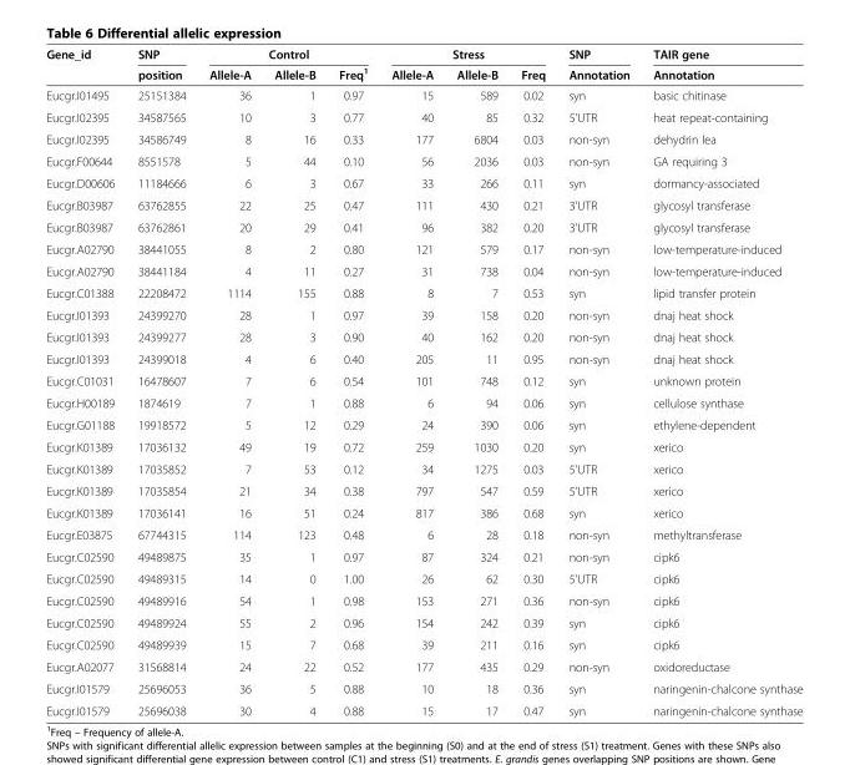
<table><thead><tr><td rowspan="2">Gene_id</td><td rowspan="2">SNP position</td><td colspan="3">Control</td><td colspan="3">Stress</td><td rowspan="2">SNP Annotation</td><td rowspan="2">TAIR gene Annotation</td></tr><tr><td>Allele-A</td><td>Allele-B</td><td>Freq<sup>1</sup></td><td>Allele-A</td><td>Allele-B</td><td>Freq</td></tr></thead><tbody><tr><td>Eucgr.I01495</td><td>25151384</td><td>36</td><td>1</td><td>0.97</td><td>15</td><td>589</td><td>0.02</td><td>syn</td><td>basic chitinase</td></tr><tr><td>Eucgr.I02395</td><td>34587565</td><td>10</td><td>3</td><td>0.77</td><td>40</td><td>85</td><td>0.32</td><td>5&#x27;UTR</td><td>heat repeat-containing</td></tr><tr><td>Eucgr.I02395</td><td>34586749</td><td>8</td><td>16</td><td>0.33</td><td>177</td><td>6804</td><td>0.03</td><td>non-syn</td><td>dehydrin lea</td></tr><tr><td>Eucgr.F00644</td><td>8551578</td><td>5</td><td>44</td><td>0.10</td><td>56</td><td>2036</td><td>0.03</td><td>non-syn</td><td>GA requiring 3</td></tr><tr><td>Eucgr.D00606</td><td>11184666</td><td>6</td><td>3</td><td>0.67</td><td>33</td><td>266</td><td>0.11</td><td>syn</td><td>dormancy-associated</td></tr><tr><td>Eucgr.B03987</td><td>63762855</td><td>22</td><td>25</td><td>0.47</td><td>111</td><td>430</td><td>0.21</td><td>3&#x27;UTR</td><td>glycosyl transferase</td></tr><tr><td>Eucgr.B03987</td><td>63762861</td><td>20</td><td>29</td><td>0.41</td><td>96</td><td>382</td><td>0.20</td><td>3&#x27;UTR</td><td>glycosyl transferase</td></tr><tr><td>Eucgr.A02790</td><td>38441055</td><td>8</td><td>2</td><td>0.80</td><td>121</td><td>579</td><td>0.17</td><td>non-syn</td><td>low-temperature-induced</td></tr><tr><td>Eucgr.A02790</td><td>38441184</td><td>4</td><td>11</td><td>0.27</td><td>31</td><td>738</td><td>0.04</td><td>non-syn</td><td>low-temperature-induced</td></tr><tr><td>Eucgr.C01388</td><td>22208472</td><td>1114</td><td>155</td><td>0.88</td><td>8</td><td>7</td><td>0.53</td><td>syn</td><td>lipid transfer protein</td></tr><tr><td>Eucgr.I01393</td><td>24399270</td><td>28</td><td>1</td><td>0.97</td><td>39</td><td>158</td><td>0.20</td><td>non-syn</td><td>dnaj heat shock</td></tr><tr><td>Eucgr.I01393</td><td>24399277</td><td>28</td><td>3</td><td>0.90</td><td>40</td><td>162</td><td>0.20</td><td>non-syn</td><td>dnaj heat shock</td></tr><tr><td>Eucgr.I01393</td><td>24399018</td><td>4</td><td>6</td><td>0.40</td><td>205</td><td>11</td><td>0.95</td><td>non-syn</td><td>dnaj heat shock</td></tr><tr><td>Eucgr.C01031</td><td>16478607</td><td>7</td><td>6</td><td>0.54</td><td>101</td><td>748</td><td>0.12</td><td>syn</td><td>unknown protein</td></tr><tr><td>Eucgr.H00189</td><td>1874619</td><td>7</td><td>1</td><td>0.88</td><td>6</td><td>94</td><td>0.06</td><td>syn</td><td>cellulose synthase</td></tr><tr><td>Eucgr.G01188</td><td>19918572</td><td>5</td><td>12</td><td>0.29</td><td>24</td><td>390</td><td>0.06</td><td>syn</td><td>ethylene-dependent</td></tr><tr><td>Eucgr.K01389</td><td>17036132</td><td>49</td><td>19</td><td>0.72</td><td>259</td><td>1030</td><td>0.20</td><td>syn</td><td>xerico</td></tr><tr><td>Eucgr.K01389</td><td>17035852</td><td>7</td><td>53</td><td>0.12</td><td>34</td><td>1275</td><td>0.03</td><td>5&#x27;UTR</td><td>xerico</td></tr><tr><td>Eucgr.K01389</td><td>17035854</td><td>21</td><td>34</td><td>0.38</td><td>797</td><td>547</td><td>0.59</td><td>5&#x27;UTR</td><td>xerico</td></tr><tr><td>Eucgr.K01389</td><td>17036141</td><td>16</td><td>51</td><td>0.24</td><td>817</td><td>386</td><td>0.68</td><td>syn</td><td>xerico</td></tr><tr><td>Eucgr.E03875</td><td>67744315</td><td>114</td><td>123</td><td>0.48</td><td>6</td><td>28</td><td>0.18</td><td>non-syn</td><td>methyltransferase</td></tr><tr><td>Eucgr.C02590</td><td>49489875</td><td>35</td><td>1</td><td>0.97</td><td>87</td><td>324</td><td>0.21</td><td>non-syn</td><td>cipk6</td></tr><tr><td>Eucgr.C02590</td><td>49489315</td><td>14</td><td>0</td><td>1.00</td><td>26</td><td>62</td><td>0.30</td><td>5&#x27;UTR</td><td>cipk6</td></tr><tr><td>Eucgr.C02590</td><td>49489916</td><td>54</td><td>1</td><td>0.98</td><td>153</td><td>271</td><td>0.36</td><td>non-syn</td><td>cipk6</td></tr><tr><td>Eucgr.C02590</td><td>49489924</td><td>55</td><td>2</td><td>0.96</td><td>154</td><td>242</td><td>0.39</td><td>syn</td><td>cipk6</td></tr><tr><td>Eucgr.C02590</td><td>49489939</td><td>15</td><td>7</td><td>0.68</td><td>39</td><td>211</td><td>0.16</td><td>syn</td><td>cipk6</td></tr><tr><td>Eucgr.A02077</td><td>31568814</td><td>24</td><td>22</td><td>0.52</td><td>177</td><td>435</td><td>0.29</td><td>non-syn</td><td>oxidoreductase</td></tr><tr><td>Eucgr.I01579</td><td>25696053</td><td>36</td><td>5</td><td>0.88</td><td>10</td><td>18</td><td>0.36</td><td>syn</td><td>naringenin-chalcone synthase</td></tr><tr><td>Eucgr.I01579</td><td>25696038</td><td>30</td><td>4</td><td>0.88</td><td>15</td><td>17</td><td>0.47</td><td>syn</td><td>naringenin-chalcone synthase</td></tr></tbody></table>